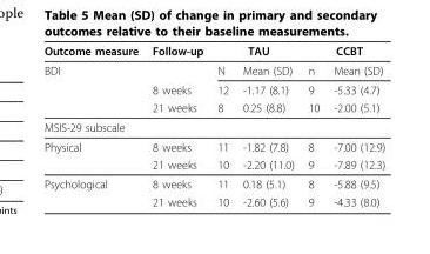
<table><thead><tr><td rowspan="2">Outcome measure BDI</td><td rowspan="2">Follow-up</td><td colspan="2">TAU</td><td colspan="2">CCBT</td></tr><tr><td>N</td><td>Mean (SD)</td><td>n</td><td>Mean (SD)</td></tr></thead><tbody><tr><td></td><td>8 weeks</td><td>12</td><td>-1.17 (8.1)</td><td>9</td><td>-5.33 (4.7)</td></tr><tr><td></td><td>21 weeks</td><td>8</td><td>0.25 (8.8)</td><td>10</td><td>-2.00 (5.1)</td></tr><tr><td colspan="6">MSIS-29 subscale</td></tr><tr><td rowspan="2">Physical</td><td>8 weeks</td><td>11</td><td>-1.82 (7.8)</td><td>8</td><td>-7.00 (12.9)</td></tr><tr><td>21 weeks</td><td>10</td><td>-2.20 (11.0)</td><td>9</td><td>-7.89 (12.3)</td></tr><tr><td rowspan="2">Psychological</td><td>8 weeks</td><td>11</td><td>0.18 (5.1)</td><td>8</td><td>-5.88 (9.5)</td></tr><tr><td>21 weeks</td><td>10</td><td>-2.60 (5.6)</td><td>9</td><td>-4.33 (8.0)</td></tr></tbody></table>